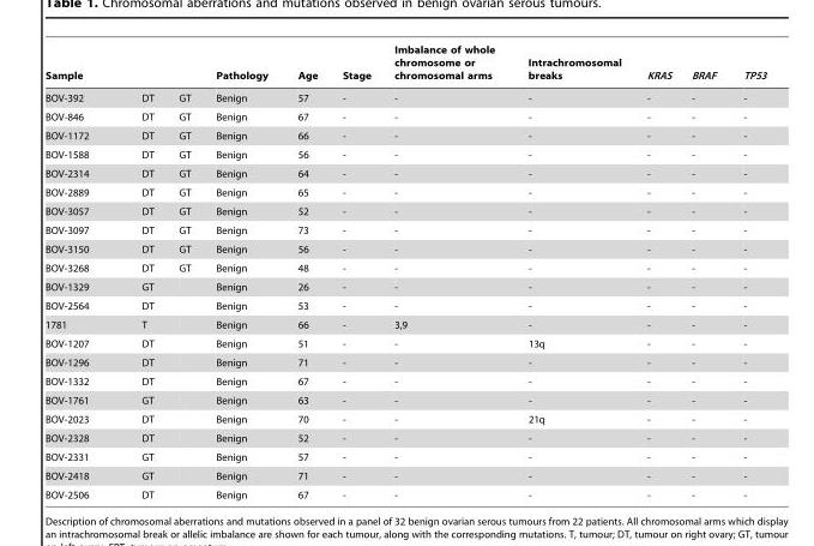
<table><thead><tr><td colspan="3">Sample</td><td rowspan="2">Pathology Benign</td><td rowspan="2">Age 57</td><td rowspan="2">Stage -</td><td rowspan="2">Imbalance of whole chromosome or chromosomal arms -</td><td rowspan="2">Intrachromosomal breaks -</td><td rowspan="2">KRAS -</td><td rowspan="2">BRAF -</td><td rowspan="2">TP53 -</td></tr><tr><td>BOV-392</td><td>DT</td><td>GT</td></tr></thead><tbody><tr><td>BOV-846</td><td>DT</td><td>GT</td><td>Benign</td><td>67</td><td>-</td><td>-</td><td>-</td><td>-</td><td>-</td><td>-</td></tr><tr><td>BOV-1172</td><td>DT</td><td>GT</td><td>Benign</td><td>66</td><td>-</td><td>-</td><td>-</td><td>-</td><td>-</td><td>-</td></tr><tr><td>BOV-1588</td><td>DT</td><td>GT</td><td>Benign</td><td>56</td><td>-</td><td>-</td><td>-</td><td>-</td><td>-</td><td>-</td></tr><tr><td>BOV-2314</td><td>DT</td><td>GT</td><td>Benign</td><td>64</td><td>-</td><td>-</td><td>-</td><td>-</td><td>-</td><td>-</td></tr><tr><td>BOV-2889</td><td>DT</td><td>GT</td><td>Benign</td><td>65</td><td>-</td><td>-</td><td>-</td><td>-</td><td>-</td><td>-</td></tr><tr><td>BOV-3057</td><td>DT</td><td>GT</td><td>Benign</td><td>52</td><td>-</td><td>-</td><td>-</td><td>-</td><td>-</td><td>-</td></tr><tr><td>BOV-3097</td><td>DT</td><td>GT</td><td>Benign</td><td>73</td><td>-</td><td>-</td><td>-</td><td>-</td><td>-</td><td>-</td></tr><tr><td>BOV-3150</td><td>DT</td><td>GT</td><td>Benign</td><td>56</td><td>-</td><td>-</td><td>-</td><td>-</td><td>-</td><td>-</td></tr><tr><td>BOV-3268</td><td>DT</td><td>GT</td><td>Benign</td><td>48</td><td>-</td><td>-</td><td>-</td><td>-</td><td>-</td><td>-</td></tr><tr><td>BOV-1329</td><td>GT</td><td></td><td>Benign</td><td>26</td><td>-</td><td>-</td><td>-</td><td>-</td><td>-</td><td>-</td></tr><tr><td>BOV-2564</td><td>DT</td><td></td><td>Benign</td><td>53</td><td>-</td><td>-</td><td>-</td><td>-</td><td>-</td><td>-</td></tr><tr><td>1781</td><td>T</td><td></td><td>Benign</td><td>66</td><td>-</td><td>3,9</td><td>-</td><td>-</td><td>-</td><td>-</td></tr><tr><td>BOV-1207</td><td>DT</td><td></td><td>Benign</td><td>51</td><td>-</td><td>-</td><td>13q</td><td>-</td><td>-</td><td>-</td></tr><tr><td>BOV-1296</td><td>DT</td><td></td><td>Benign</td><td>71</td><td>-</td><td>-</td><td>-</td><td>-</td><td>-</td><td>-</td></tr><tr><td>BOV-1332</td><td>DT</td><td></td><td>Benign</td><td>67</td><td>-</td><td>-</td><td>-</td><td>-</td><td>-</td><td>-</td></tr><tr><td>BOV-1761</td><td>GT</td><td></td><td>Benign</td><td>63</td><td>-</td><td>-</td><td>-</td><td>-</td><td>-</td><td>-</td></tr><tr><td>BOV-2023</td><td>DT</td><td></td><td>Benign</td><td>70</td><td>-</td><td>-</td><td>21q</td><td>-</td><td>-</td><td>-</td></tr><tr><td>BOV-2328</td><td>DT</td><td></td><td>Benign</td><td>52</td><td>-</td><td>-</td><td>-</td><td>-</td><td>-</td><td>-</td></tr><tr><td>BOV-2331</td><td>GT</td><td></td><td>Benign</td><td>57</td><td>-</td><td>-</td><td>-</td><td>-</td><td>-</td><td>-</td></tr><tr><td>BOV-2418</td><td>GT</td><td></td><td>Benign</td><td>71</td><td>-</td><td>-</td><td>-</td><td>-</td><td>-</td><td>-</td></tr><tr><td>BOV-2506</td><td>DT</td><td></td><td>Benign</td><td>67</td><td>-</td><td>-</td><td>-</td><td>-</td><td>-</td><td>-</td></tr></tbody></table>